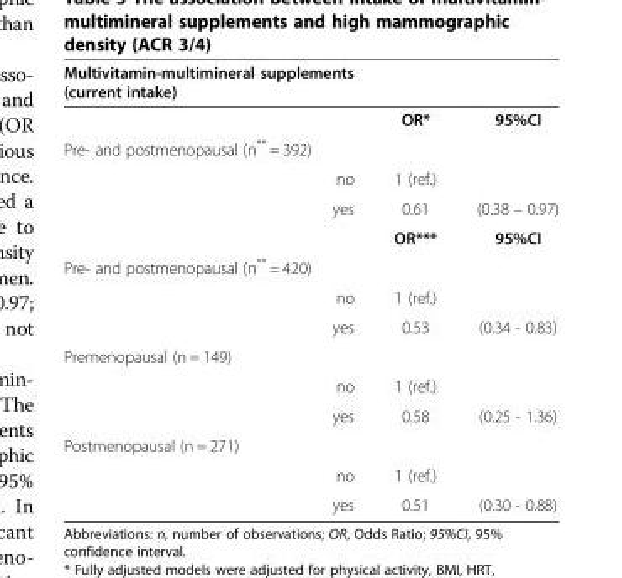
<table><thead><tr><td>Multivitamin-multimineral supplements (current intake)</td><td></td><td></td></tr></thead><tbody><tr><td></td><td>OR*</td><td>95%CI</td></tr><tr><td colspan="3">Pre- and postmenopausal (n** = 392)</td></tr><tr><td>no</td><td>1 (ref.)</td><td></td></tr><tr><td rowspan="2">yes</td><td>0.61</td><td>(0.38 – 0.97)</td></tr><tr><td>OR***</td><td>95%CI</td></tr><tr><td colspan="3">Pre- and postmenopausal (n** = 420)</td></tr><tr><td>no</td><td>1 (ref.)</td><td></td></tr><tr><td>yes</td><td>0.53</td><td>(0.34 - 0.83)</td></tr><tr><td colspan="3">Premenopausal (n = 149)</td></tr><tr><td>no</td><td>1 (ref.)</td><td></td></tr><tr><td>yes</td><td>0.58</td><td>(0.25 - 1.36)</td></tr><tr><td colspan="3">Postmenopausal (n = 271)</td></tr><tr><td>no</td><td>1 (ref.)</td><td></td></tr><tr><td>yes</td><td>0.51</td><td>(0.30 - 0.88)</td></tr></tbody></table>